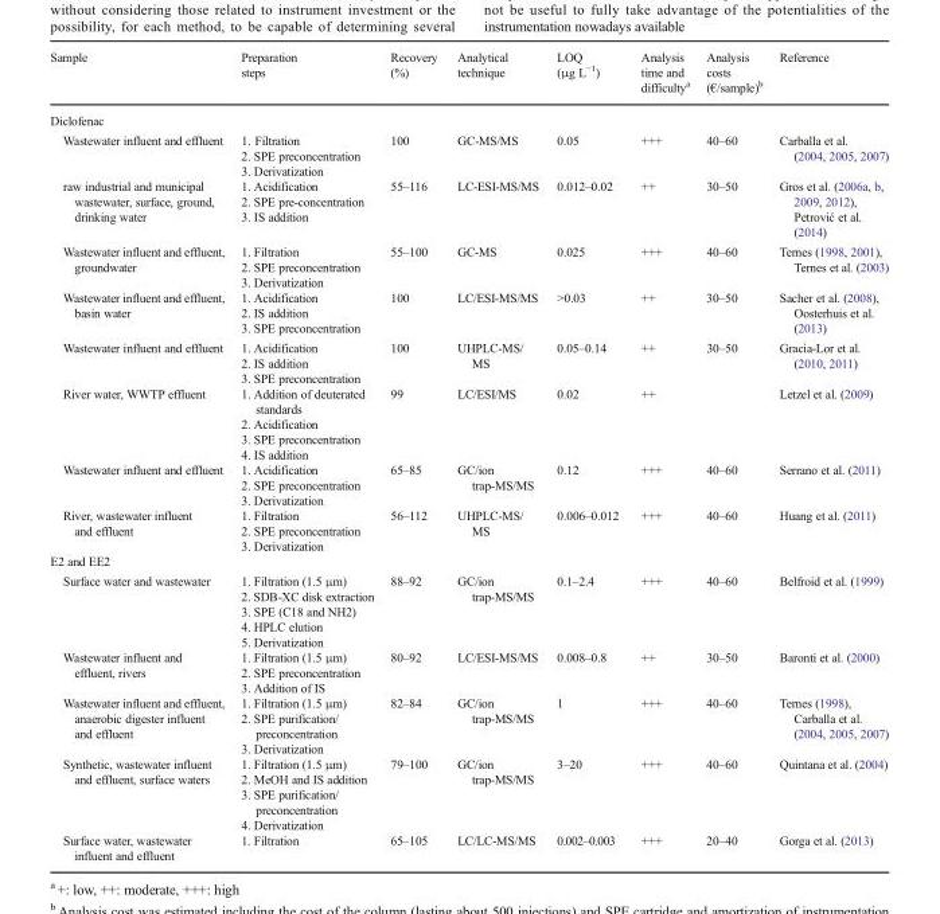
<table><thead><tr><td>Sample</td><td>Preparation steps</td><td>Recovery (%)</td><td>Analytical technique</td><td>LOQ (μg L<sup>−1</sup>)</td><td>Analysis time and difficulty<sup>a</sup></td><td>Analysis costs (€/sample)<sup>b</sup></td><td>Reference</td></tr></thead><tbody><tr><td colspan="8">Diclofenac</td></tr><tr><td>Wastewater influent and effluent</td><td>1. Filtration 2. SPE preconcentration 3. Derivatization</td><td>100</td><td>GC-MS/MS</td><td>0.05</td><td>+++</td><td>40–60</td><td>Carballa et al. (2004, 2005, 2007)</td></tr><tr><td>raw industrial and municipal wastewater, surface, ground, drinking water</td><td>1. Acidification 2. SPE pre-concentration 3. IS addition</td><td>55–116</td><td>LC-ESI-MS/MS</td><td>0.012–0.02</td><td>++</td><td>30–50</td><td>Gros et al. (2006a, b, 2009, 2012), Petrović et al. (2014)</td></tr><tr><td>Wastewater influent and effluent, groundwater</td><td>1. Filtration 2. SPE preconcentration 3. Derivatization</td><td>55–100</td><td>GC-MS</td><td>0.025</td><td>+++</td><td>40–60</td><td>Ternes (1998, 2001), Ternes et al. (2003)</td></tr><tr><td>Wastewater influent and effluent, basin water</td><td>1. Acidification 2. IS addition 3. SPE preconcentration</td><td>100</td><td>LC/ESI-MS/MS</td><td>&gt;0.03</td><td>++</td><td>30–50</td><td>Sacher et al. (2008), Oosterhuis et al. (2013)</td></tr><tr><td>Wastewater influent and effluent</td><td>1. Acidification 2. IS addition 3. SPE preconcentration</td><td>100</td><td>UHPLC-MS/ MS</td><td>0.05–0.14</td><td>++</td><td>30–50</td><td>Gracia-Lor et al. (2010, 2011)</td></tr><tr><td>River water, WWTP effluent</td><td>1. Addition of deuterated standards 2. Acidification 3. SPE preconcentration 4. IS addition</td><td>99</td><td>LC/ESI/MS</td><td>0.02</td><td>++</td><td></td><td>Letzel et al. (2009)</td></tr><tr><td>Wastewater influent and effluent</td><td>1. Acidification 2. SPE preconcentration 3. Derivatization</td><td>65–85</td><td>GC/ion trap-MS/MS</td><td>0.12</td><td>+++</td><td>40–60</td><td>Serrano et al. (2011)</td></tr><tr><td>River, wastewater influent and effluent</td><td>1. Filtration 2. SPE preconcentration 3. Derivatization</td><td>56–112</td><td>UHPLC-MS/ MS</td><td>0.006–0.012</td><td>+++</td><td>40–60</td><td>Huang et al. (2011)</td></tr><tr><td colspan="8">E2 and EE2</td></tr><tr><td>Surface water and wastewater</td><td>1. Filtration (1.5 μm) 2. SDB-XC disk extraction 3. SPE (C18 and NH2) 4. HPLC elution 5. Derivatization</td><td>88–92</td><td>GC/ion trap-MS/MS</td><td>0.1–2.4</td><td>+++</td><td>40–60</td><td>Belfroid et al. (1999)</td></tr><tr><td>Wastewater influent and effluent, rivers</td><td>1. Filtration (1.5 μm) 2. SPE preconcentration 3. Addition of IS</td><td>80–92</td><td>LC/ESI-MS/MS</td><td>0.008–0.8</td><td>++</td><td>30–50</td><td>Baronti et al. (2000)</td></tr><tr><td>Wastewater influent and effluent, anaerobic digester influent and effluent</td><td>1. Filtration (1.5 μm) 2. SPE purification/ preconcentration 3. Derivatization</td><td>82–84</td><td>GC/ion trap-MS/MS</td><td>1</td><td>+++</td><td>40–60</td><td>Ternes (1998), Carballa et al. (2004, 2005, 2007)</td></tr><tr><td>Synthetic, wastewater influent and effluent, surface waters</td><td>1. Filtration (1.5 μm) 2. MeOH and IS addition 3. SPE purification/ preconcentration 4. Derivatization</td><td>79–100</td><td>GC/ion trap-MS/MS</td><td>3–20</td><td>+++</td><td>40–60</td><td>Quintana et al. (2004)</td></tr><tr><td>Surface water, wastewater influent and effluent</td><td>1. Filtration</td><td>65–105</td><td>LC/LC-MS/MS</td><td>0.002–0.003</td><td>+++</td><td>20–40</td><td>Gorga et al. (2013)</td></tr></tbody></table>